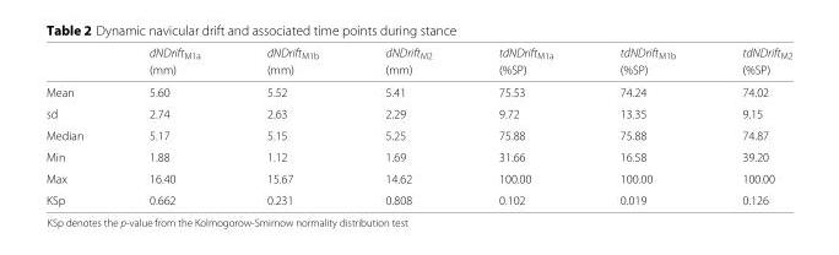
<table><thead><tr><td rowspan="2"></td><td rowspan="2">dNDrift<sub>M1a</sub> (mm)</td><td rowspan="2">dNDrift<sub>M1b</sub> (mm)</td><td rowspan="2">dNDrift<sub>M2</sub> (mm)</td><td rowspan="2">tdNDrift<sub>M1a</sub> (%SP)</td><td rowspan="2">tdNDrift<sub>M1b</sub> (%SP)</td><td rowspan="2">tdNDrift<sub>M2</sub> (%SP)</td></tr><tr></tr></thead><tbody><tr><td>Mean</td><td>5.60</td><td>5.52</td><td>5.41</td><td>75.53</td><td>74.24</td><td>74.02</td></tr><tr><td>sd</td><td>2.74</td><td>2.63</td><td>2.29</td><td>9.72</td><td>13.35</td><td>9.15</td></tr><tr><td>Median</td><td>5.17</td><td>5.15</td><td>5.25</td><td>75.88</td><td>75.88</td><td>74.87</td></tr><tr><td>Min</td><td>1.88</td><td>1.12</td><td>1.69</td><td>31.66</td><td>16.58</td><td>39.20</td></tr><tr><td>Max</td><td>16.40</td><td>15.67</td><td>14.62</td><td>100.00</td><td>100.00</td><td>100.00</td></tr><tr><td>KSp</td><td>0.662</td><td>0.231</td><td>0.808</td><td>0.102</td><td>0.019</td><td>0.126</td></tr></tbody></table>